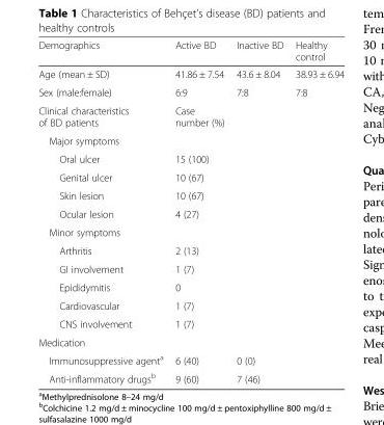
<table><thead><tr><td>Demographics</td><td>Active BD</td><td>Inactive BD</td><td>Healthy control</td></tr></thead><tbody><tr><td>Age (mean ± SD)</td><td>41.86 ± 7.54</td><td>43.6 ± 8.04</td><td>38.93 ± 6.94</td></tr><tr><td>Sex (male:female)</td><td>6:9</td><td>7:8</td><td>7:8</td></tr><tr><td>Clinical characteristics of BD patients</td><td>Case number (%)</td><td></td><td></td></tr><tr><td colspan="4">Major symptoms</td></tr><tr><td>Oral ulcer</td><td>15 (100)</td><td></td><td></td></tr><tr><td>Genital ulcer</td><td>10 (67)</td><td></td><td></td></tr><tr><td>Skin lesion</td><td>10 (67)</td><td></td><td></td></tr><tr><td>Ocular lesion</td><td>4 (27)</td><td></td><td></td></tr><tr><td colspan="4">Minor symptoms</td></tr><tr><td>Arthritis</td><td>2 (13)</td><td></td><td></td></tr><tr><td>GI involvement</td><td>1 (7)</td><td></td><td></td></tr><tr><td>Epididymitis</td><td>0</td><td></td><td></td></tr><tr><td>Cardiovascular</td><td>1 (7)</td><td></td><td></td></tr><tr><td>CNS involvement</td><td>1 (7)</td><td></td><td></td></tr><tr><td colspan="4">Medication</td></tr><tr><td>Immunosuppressive agent<sup>a</sup></td><td>6 (40)</td><td>0 (0)</td><td></td></tr><tr><td>Anti-inflammatory drugs<sup>b</sup></td><td>9 (60)</td><td>7 (46)</td><td></td></tr></tbody></table>